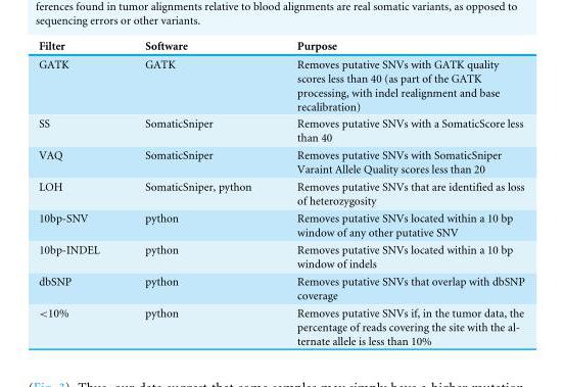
<table><thead><tr><td>Filter</td><td>Software</td><td>Purpose</td></tr></thead><tbody><tr><td>GATK</td><td>GATK</td><td>Removes putative SNVs with GATK quality scores less than 40 (as part of the GATK processing, with indel realignment and base recalibration)</td></tr><tr><td>SS</td><td>SomaticSniper</td><td>Removes putative SNVs with a SomaticScore less than 40</td></tr><tr><td>VAQ</td><td>SomaticSniper</td><td>Removes putative SNVs with SomaticSniper Varaint Allele Quality scores less than 20</td></tr><tr><td>LOH</td><td>SomaticSniper, python</td><td>Removes putative SNVs that are identified as loss of heterozygosity</td></tr><tr><td>10bp-SNV</td><td>python</td><td>Removes putative SNVs located within a 10 bp window of any other putative SNV</td></tr><tr><td>10bp-INDEL</td><td>python</td><td>Removes putative SNVs located within a 10 bp window of indels</td></tr><tr><td>dbSNP</td><td>python</td><td>Removes putative SNVs that overlap with dbSNP coverage</td></tr><tr><td>&lt;10%</td><td>python</td><td>Removes putative SNVs if, in the tumor data, the percentage of reads covering the site with the al- ternate allele is less than 10%</td></tr></tbody></table>